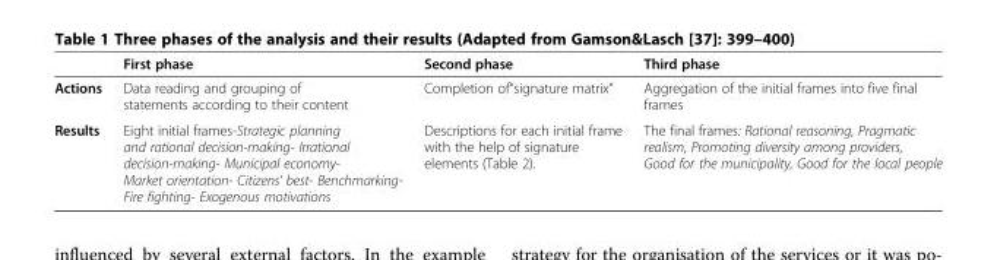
<table><thead><tr><td></td><td>First phase</td><td>Second phase</td><td>Third phase</td></tr></thead><tbody><tr><td>Actions</td><td>Data reading and grouping of statements according to their content</td><td>Completion of”signature matrix”</td><td>Aggregation of the initial frames into five final frames</td></tr><tr><td>Results</td><td>Eight initial frames-Strategic planning and rational decision-making- Irrational decision-making- Municipal economy- Market orientation- Citizens’ best- Benchmarking- Fire fighting- Exogenous motivations</td><td>Descriptions for each initial frame with the help of signature elements (Table 2).</td><td>The final frames: Rational reasoning, Pragmatic realism, Promoting diversity among providers, Good for the municipality, Good for the local people</td></tr></tbody></table>